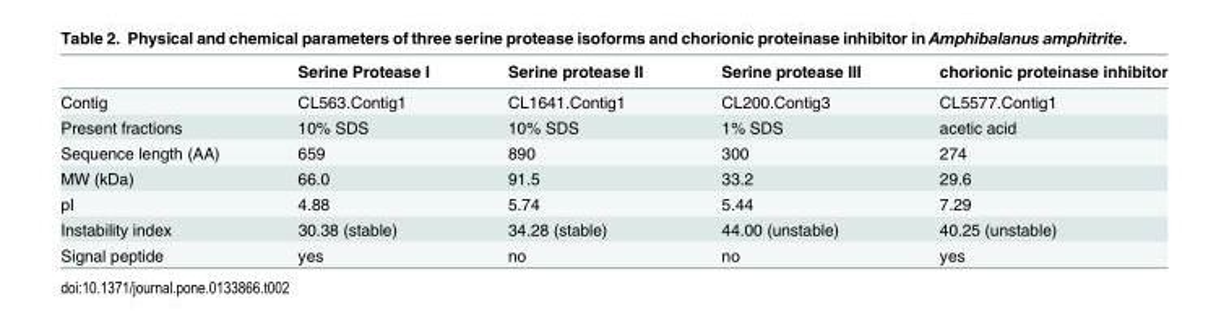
<table><thead><tr><td></td><td>Serine Protease I</td><td>Serine protease II</td><td>Serine protease III</td><td>chorionic proteinase inhibitor</td></tr></thead><tbody><tr><td>Contig</td><td>CL563.Contig1</td><td>CL1641.Contig1</td><td>CL200.Contig3</td><td>CL5577.Contig1</td></tr><tr><td>Present fractions</td><td>10% SDS</td><td>10% SDS</td><td>1% SDS</td><td>acetic acid</td></tr><tr><td>Sequence length (AA)</td><td>659</td><td>890</td><td>300</td><td>274</td></tr><tr><td>MW (kDa)</td><td>66.0</td><td>91.5</td><td>33.2</td><td>29.6</td></tr><tr><td>pI</td><td>4.88</td><td>5.74</td><td>5.44</td><td>7.29</td></tr><tr><td>Instability index</td><td>30.38 (stable)</td><td>34.28 (stable)</td><td>44.00 (unstable)</td><td>40.25 (unstable)</td></tr><tr><td>Signal peptide</td><td>yes</td><td>no</td><td>no</td><td>yes</td></tr></tbody></table>